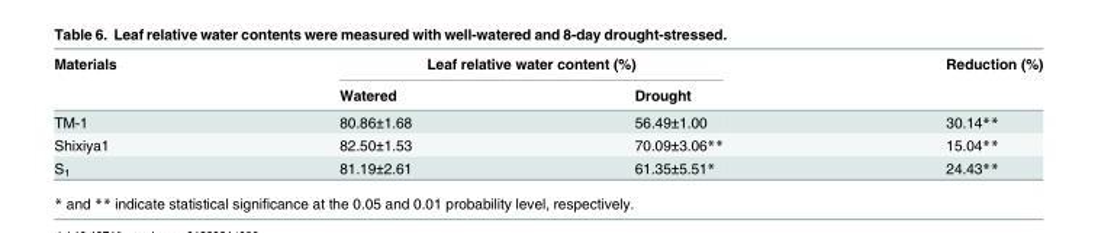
<table><thead><tr><td rowspan="2">Materials</td><td colspan="2">Leaf relative water content (%)</td><td rowspan="2">Reduction (%)</td></tr><tr><td>Watered</td><td>Drought</td></tr></thead><tbody><tr><td>TM-1</td><td>80.86±1.68</td><td>56.49±1.00</td><td>30.14**</td></tr><tr><td>Shixiya1</td><td>82.50±1.53</td><td>70.09±3.06**</td><td>15.04**</td></tr><tr><td>S<sub>1</sub></td><td>81.19±2.61</td><td>61.35±5.51*</td><td>24.43**</td></tr></tbody></table>